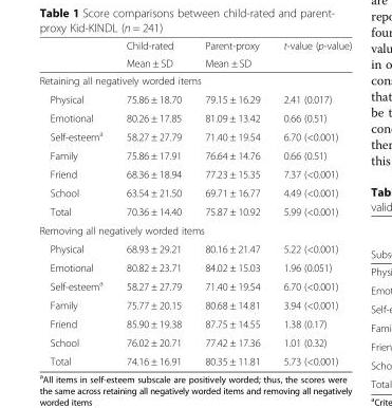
<table><thead><tr><td rowspan="2"></td><td rowspan="2">Child-rated Mean ± SD</td><td rowspan="2">Parent-proxy Mean ± SD</td><td rowspan="2">t-value (p-value)</td></tr><tr></tr></thead><tbody><tr><td colspan="4">Retaining all negatively worded items</td></tr><tr><td>Physical</td><td>75.86 ± 18.70</td><td>79.15 ± 16.29</td><td>2.41 (0.017)</td></tr><tr><td>Emotional</td><td>80.26 ± 17.85</td><td>81.09 ± 13.42</td><td>0.66 (0.51)</td></tr><tr><td>Self-esteem<sup>a</sup></td><td>58.27 ± 27.79</td><td>71.40 ± 19.54</td><td>6.70 (&lt;0.001)</td></tr><tr><td>Family</td><td>75.86 ± 17.91</td><td>76.64 ± 14.76</td><td>0.66 (0.51)</td></tr><tr><td>Friend</td><td>68.36 ± 18.94</td><td>77.23 ± 15.35</td><td>7.37 (&lt;0.001)</td></tr><tr><td>School</td><td>63.54 ± 21.50</td><td>69.71 ± 16.77</td><td>4.49 (&lt;0.001)</td></tr><tr><td>Total</td><td>70.36 ± 14.40</td><td>75.87 ± 10.92</td><td>5.99 (&lt;0.001)</td></tr><tr><td colspan="4">Removing all negatively worded items</td></tr><tr><td>Physical</td><td>68.93 ± 29.21</td><td>80.16 ± 21.47</td><td>5.22 (&lt;0.001)</td></tr><tr><td>Emotional</td><td>80.82 ± 23.71</td><td>84.02 ± 15.03</td><td>1.96 (0.051)</td></tr><tr><td>Self-esteem<sup>a</sup></td><td>58.27 ± 27.79</td><td>71.40 ± 19.54</td><td>6.70 (&lt;0.001)</td></tr><tr><td>Family</td><td>75.77 ± 20.15</td><td>80.68 ± 14.81</td><td>3.94 (&lt;0.001)</td></tr><tr><td>Friend</td><td>85.90 ± 19.38</td><td>87.75 ± 14.55</td><td>1.38 (0.17)</td></tr><tr><td>School</td><td>76.02 ± 20.71</td><td>77.42 ± 17.36</td><td>1.01 (0.32)</td></tr><tr><td>Total</td><td>74.16 ± 16.91</td><td>80.35 ± 11.81</td><td>5.73 (&lt;0.001)</td></tr></tbody></table>